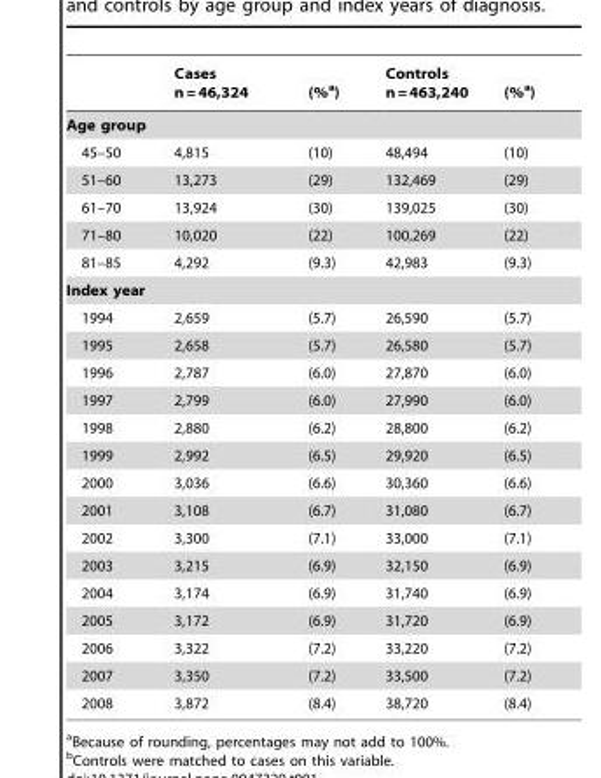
<table><thead><tr><td></td><td>Cases n = 46,324</td><td>(%<sup>a</sup>)</td><td>Controls n = 463,240</td><td>(%<sup>a</sup>)</td></tr></thead><tbody><tr><td colspan="5">Age group</td></tr><tr><td>45–50</td><td>4,815</td><td>(10)</td><td>48,494</td><td>(10)</td></tr><tr><td>51–60</td><td>13,273</td><td>(29)</td><td>132,469</td><td>(29)</td></tr><tr><td>61–70</td><td>13,924</td><td>(30)</td><td>139,025</td><td>(30)</td></tr><tr><td>71–80</td><td>10,020</td><td>(22)</td><td>100,269</td><td>(22)</td></tr><tr><td>81–85</td><td>4,292</td><td>(9.3)</td><td>42,983</td><td>(9.3)</td></tr><tr><td colspan="5">Index year</td></tr><tr><td>1994</td><td>2,659</td><td>(5.7)</td><td>26,590</td><td>(5.7)</td></tr><tr><td>1995</td><td>2,658</td><td>(5.7)</td><td>26,580</td><td>(5.7)</td></tr><tr><td>1996</td><td>2,787</td><td>(6.0)</td><td>27,870</td><td>(6.0)</td></tr><tr><td>1997</td><td>2,799</td><td>(6.0)</td><td>27,990</td><td>(6.0)</td></tr><tr><td>1998</td><td>2,880</td><td>(6.2)</td><td>28,800</td><td>(6.2)</td></tr><tr><td>1999</td><td>2,992</td><td>(6.5)</td><td>29,920</td><td>(6.5)</td></tr><tr><td>2000</td><td>3,036</td><td>(6.6)</td><td>30,360</td><td>(6.6)</td></tr><tr><td>2001</td><td>3,108</td><td>(6.7)</td><td>31,080</td><td>(6.7)</td></tr><tr><td>2002</td><td>3,300</td><td>(7.1)</td><td>33,000</td><td>(7.1)</td></tr><tr><td>2003</td><td>3,215</td><td>(6.9)</td><td>32,150</td><td>(6.9)</td></tr><tr><td>2004</td><td>3,174</td><td>(6.9)</td><td>31,740</td><td>(6.9)</td></tr><tr><td>2005</td><td>3,172</td><td>(6.9)</td><td>31,720</td><td>(6.9)</td></tr><tr><td>2006</td><td>3,322</td><td>(7.2)</td><td>33,220</td><td>(7.2)</td></tr><tr><td>2007</td><td>3,350</td><td>(7.2)</td><td>33,500</td><td>(7.2)</td></tr><tr><td>2008</td><td>3,872</td><td>(8.4)</td><td>38,720</td><td>(8.4)</td></tr></tbody></table>